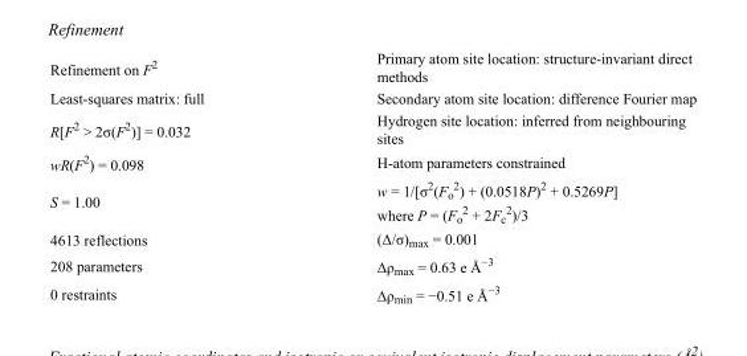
<table><tbody><tr><td>Refinement on F<sup>2</sup></td><td>Primary atom site location: structure-invariant direct methods</td></tr><tr><td>Least-squares matrix: full</td><td>Secondary atom site location: difference Fourier map</td></tr><tr><td>R[F<sup>2</sup> &gt; 2σ(F<sup>2</sup>)] = 0.032</td><td>Hydrogen site location: inferred from neighbouring sites</td></tr><tr><td>wR(F<sup>2</sup>) = 0.098</td><td>H-atom parameters constrained</td></tr><tr><td>S = 1.00</td><td>w = 1/[σ<sup>2</sup>(F<sub>o</sub> <sup>2</sup>) + (0.0518P)<sup>2</sup> + 0.5269P] where P = (F<sub>o</sub> <sup>2</sup> + 2F<sub>c</sub> <sup>2</sup>)/3</td></tr><tr><td>4613 reflections</td><td>(Δ/σ)<sub>max</sub> = 0.001</td></tr><tr><td>208 parameters</td><td>Δρ<sub>max</sub> = 0.63 e Å<sup>−3</sup></td></tr><tr><td>0 restraints</td><td>Δρmin = −0.51 e Å−3</td></tr></tbody></table>